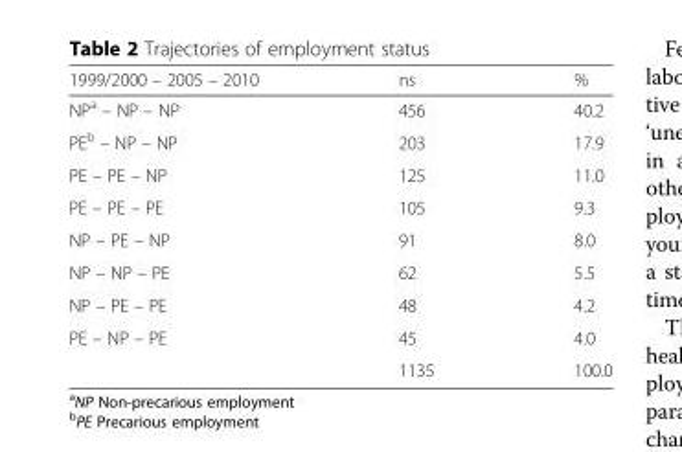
<table><thead><tr><td>1999/2000 – 2005 – 2010</td><td>ns</td><td>%</td></tr></thead><tbody><tr><td>NP<sup>a</sup> – NP – NP</td><td>456</td><td>40.2</td></tr><tr><td>PE<sup>b</sup> – NP – NP</td><td>203</td><td>17.9</td></tr><tr><td>PE – PE – NP</td><td>125</td><td>11.0</td></tr><tr><td>PE – PE – PE</td><td>105</td><td>9.3</td></tr><tr><td>NP – PE – NP</td><td>91</td><td>8.0</td></tr><tr><td>NP – NP – PE</td><td>62</td><td>5.5</td></tr><tr><td>NP – PE – PE</td><td>48</td><td>4.2</td></tr><tr><td rowspan="2">PE – NP – PE</td><td>45</td><td>4.0</td></tr><tr><td>1135</td><td>100.0</td></tr></tbody></table>